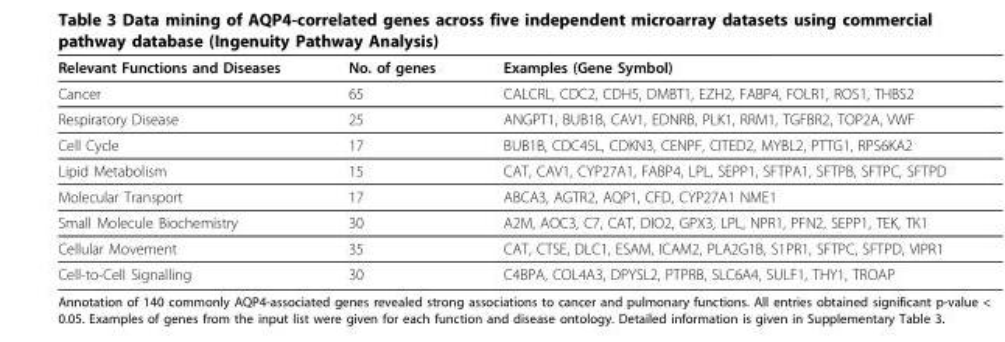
<table><thead><tr><td>Relevant Functions and Diseases</td><td>No. of genes</td><td>Examples (Gene Symbol)</td></tr></thead><tbody><tr><td>Cancer</td><td>65</td><td>CALCRL, CDC2, CDH5, DMBT1, EZH2, FABP4, FOLR1, ROS1, THBS2</td></tr><tr><td>Respiratory Disease</td><td>25</td><td>ANGPT1, BUB1B, CAV1, EDNRB, PLK1, RRM1, TGFBR2, TOP2A, VWF</td></tr><tr><td>Cell Cycle</td><td>17</td><td>BUB1B, CDC45L, CDKN3, CENPF, CITED2, MYBL2, PTTG1, RPS6KA2</td></tr><tr><td>Lipid Metabolism</td><td>15</td><td>CAT, CAV1, CYP27A1, FABP4, LPL, SEPP1, SFTPA1, SFTPB, SFTPC, SFTPD</td></tr><tr><td>Molecular Transport</td><td>17</td><td>ABCA3, AGTR2, AQP1, CFD, CYP27A1 NME1</td></tr><tr><td>Small Molecule Biochemistry</td><td>30</td><td>A2M, AOC3, C7, CAT, DIO2, GPX3, LPL, NPR1, PFN2, SEPP1, TEK, TK1</td></tr><tr><td>Cellular Movement</td><td>35</td><td>CAT, CTSE, DLC1, ESAM, ICAM2, PLA2G1B, S1PR1, SFTPC, SFTPD, VIPR1</td></tr><tr><td>Cell-to-Cell Signalling</td><td>30</td><td>C4BPA, COL4A3, DPYSL2, PTPRB, SLC6A4, SULF1, THY1, TROAP</td></tr></tbody></table>